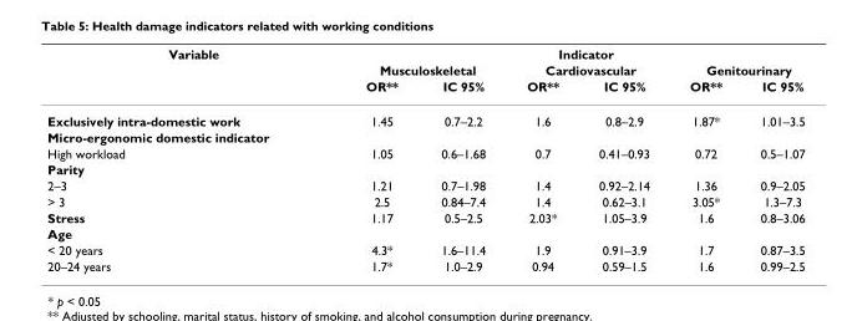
<table><thead><tr><td rowspan="3">Variable</td><td colspan="6">Indicator</td></tr><tr><td colspan="2">Musculoskeletal</td><td colspan="2">Cardiovascular</td><td colspan="2">Genitourinary</td></tr><tr><td>OR**</td><td>IC 95%</td><td>OR**</td><td>IC 95%</td><td>OR**</td><td>IC 95%</td></tr></thead><tbody><tr><td>Exclusively intra-domestic work</td><td>1.45</td><td>0.7–2.2</td><td>1.6</td><td>0.8–2.9</td><td>1.87*</td><td>1.01–3.5</td></tr><tr><td colspan="7">Micro-ergonomic domestic indicator</td></tr><tr><td>High workload</td><td>1.05</td><td>0.6–1.68</td><td>0.7</td><td>0.41–0.93</td><td>0.72</td><td>0.5–1.07</td></tr><tr><td colspan="7">Parity</td></tr><tr><td>2–3</td><td>1.21</td><td>0.7–1.98</td><td>1.4</td><td>0.92–2.14</td><td>1.36</td><td>0.9–2.05</td></tr><tr><td>&gt; 3</td><td>2.5</td><td>0.84–7.4</td><td>1.4</td><td>0.62–3.1</td><td>3.05*</td><td>1.3–7.3</td></tr><tr><td>Stress</td><td>1.17</td><td>0.5–2.5</td><td>2.03*</td><td>1.05–3.9</td><td>1.6</td><td>0.8–3.06</td></tr><tr><td colspan="7">Age</td></tr><tr><td>&lt; 20 years</td><td>4.3*</td><td>1.6–11.4</td><td>1.9</td><td>0.91–3.9</td><td>1.7</td><td>0.87–3.5</td></tr><tr><td>20–24 years</td><td>1.7*</td><td>1.0–2.9</td><td>0.94</td><td>0.59–1.5</td><td>1.6</td><td>0.99–2.5</td></tr></tbody></table>